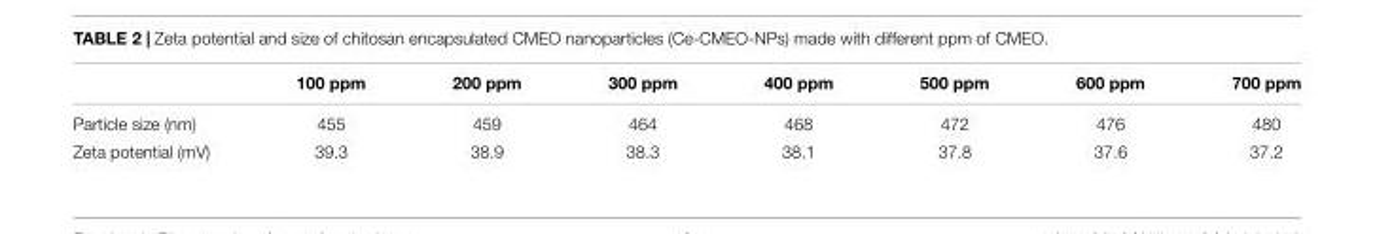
<table><thead><tr><td></td><td>100 ppm</td><td>200 ppm</td><td>300 ppm</td><td>400 ppm</td><td>500 ppm</td><td>600 ppm</td><td>700 ppm</td></tr></thead><tbody><tr><td>Particle size (nm)</td><td>455</td><td>459</td><td>464</td><td>468</td><td>472</td><td>476</td><td>480</td></tr><tr><td>Zeta potential (mV)</td><td>39.3</td><td>38.9</td><td>38.3</td><td>38.1</td><td>37.8</td><td>37.6</td><td>37.2</td></tr></tbody></table>